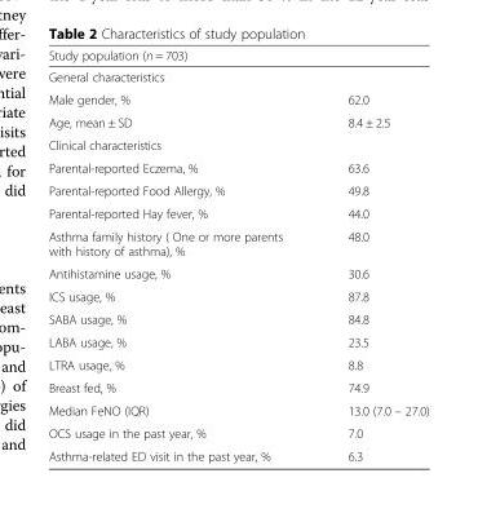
<table><thead><tr><td colspan="2">Study population (n = 703)</td></tr><tr><td>General characteristics</td><td></td></tr></thead><tbody><tr><td>Male gender, %</td><td>62.0</td></tr><tr><td>Age, mean ± SD</td><td>8.4 ± 2.5</td></tr><tr><td colspan="2">Clinical characteristics</td></tr><tr><td>Parental-reported Eczema, %</td><td>63.6</td></tr><tr><td>Parental-reported Food Allergy, %</td><td>49.8</td></tr><tr><td>Parental-reported Hay fever, %</td><td>44.0</td></tr><tr><td>Asthma family history ( One or more parents with history of asthma), %</td><td>48.0</td></tr><tr><td>Antihistamine usage, %</td><td>30.6</td></tr><tr><td>ICS usage, %</td><td>87.8</td></tr><tr><td>SABA usage, %</td><td>84.8</td></tr><tr><td>LABA usage, %</td><td>23.5</td></tr><tr><td>LTRA usage, %</td><td>8.8</td></tr><tr><td>Breast fed, %</td><td>74.9</td></tr><tr><td>Median FeNO (IQR)</td><td>13.0 (7.0 – 27.0)</td></tr><tr><td>OCS usage in the past year, %</td><td>7.0</td></tr><tr><td>Asthma-related ED visit in the past year, %</td><td>6.3</td></tr></tbody></table>